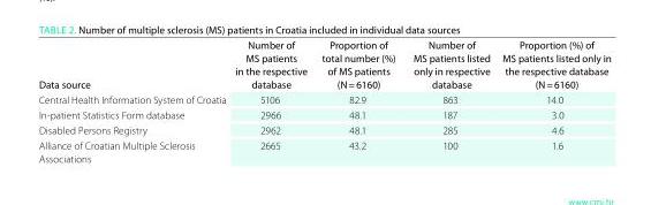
<table><thead><tr><td>Data source</td><td>Number of MS patients in the respective database</td><td>Proportion of total number (%) of MS patients (N = 6160)</td><td>Number of MS patients listed only in respective database</td><td>Proportion (%) of MS patients listed only in the respective database (N = 6160)</td></tr></thead><tbody><tr><td>Central Health Information System of Croatia</td><td>5106</td><td>82.9</td><td>863</td><td>14.0</td></tr><tr><td>In-patient Statistics Form database</td><td>2966</td><td>48.1</td><td>187</td><td>3.0</td></tr><tr><td>Disabled Persons Registry</td><td>2962</td><td>48.1</td><td>285</td><td>4.6</td></tr><tr><td>Alliance of Croatian Multiple Sclerosis Associations</td><td>2665</td><td>43.2</td><td>100</td><td>1.6</td></tr></tbody></table>